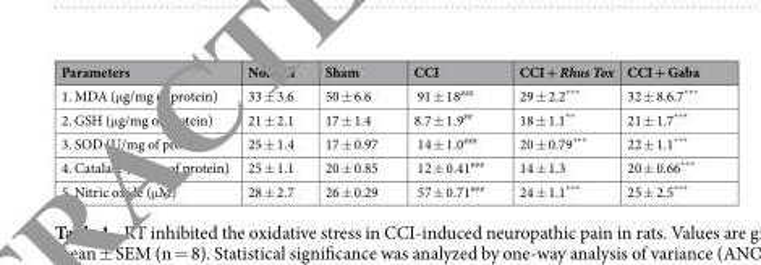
<table><thead><tr><td>Parameters</td><td>Normal</td><td>Sham</td><td>CCI</td><td>CCI + Rhus Tox</td><td>CCI + Gaba</td></tr></thead><tbody><tr><td>1. MDA (μg/mg of protein)</td><td>33 ± 3.6</td><td>50 ± 6.6</td><td>91 ± 18###</td><td>29 ± 2.2***</td><td>32 ± 8.6.7***</td></tr><tr><td>2. GSH (μg/mg of protein)</td><td>21 ± 2.1</td><td>17 ± 1.4</td><td>8.7 ± 1.9##</td><td>18 ± 1.1**</td><td>21 ± 1.7***</td></tr><tr><td>3. SOD (U/mg of protein)</td><td>25 ± 1.4</td><td>17 ± 0.97</td><td>14 ± 1.0###</td><td>20 ± 0.79***</td><td>22 ± 1.1***</td></tr><tr><td>4. Catalase (U/mg of protein)</td><td>25 ± 1.1</td><td>20 ± 0.85</td><td>12 ± 0.41###</td><td>14 ± 1.3</td><td>20 ± 0.66***</td></tr><tr><td>5. Nitric oxide (μM)</td><td>28 ± 2.7</td><td>26 ± 0.29</td><td>57 ± 0.71###</td><td>24 ± 1.1***</td><td>25 ± 2.5***</td></tr></tbody></table>